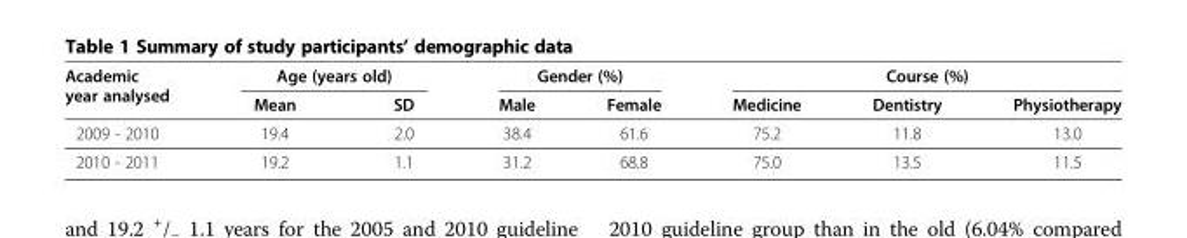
<table><thead><tr><td rowspan="2">Academic year analysed</td><td colspan="2">Age (years old)</td><td colspan="2">Gender (%)</td><td colspan="3">Course (%)</td></tr><tr><td>Mean</td><td>SD</td><td>Male</td><td>Female</td><td>Medicine</td><td>Dentistry</td><td>Physiotherapy</td></tr></thead><tbody><tr><td>2009 - 2010</td><td>19.4</td><td>2.0</td><td>38.4</td><td>61.6</td><td>75.2</td><td>11.8</td><td>13.0</td></tr><tr><td>2010 - 2011</td><td>19.2</td><td>1.1</td><td>31.2</td><td>68.8</td><td>75.0</td><td>13.5</td><td>11.5</td></tr></tbody></table>